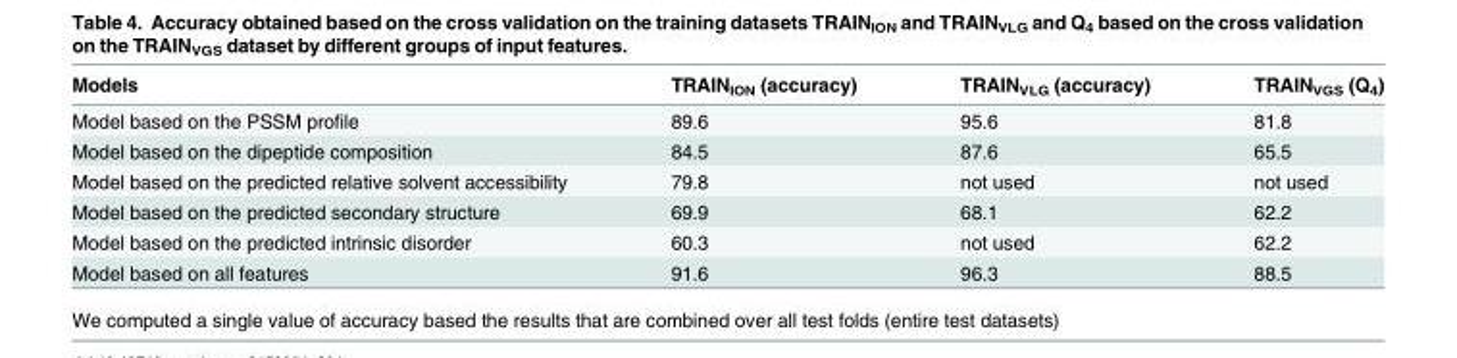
<table><thead><tr><td>Models</td><td>TRAIN<sub>ION</sub> (accuracy)</td><td>TRAIN<sub>VLG</sub> (accuracy)</td><td>TRAIN<sub>VGS</sub> (Q<sub>4</sub>)</td></tr></thead><tbody><tr><td>Model based on the PSSM profile</td><td>89.6</td><td>95.6</td><td>81.8</td></tr><tr><td>Model based on the dipeptide composition</td><td>84.5</td><td>87.6</td><td>65.5</td></tr><tr><td>Model based on the predicted relative solvent accessibility</td><td>79.8</td><td>not used</td><td>not used</td></tr><tr><td>Model based on the predicted secondary structure</td><td>69.9</td><td>68.1</td><td>62.2</td></tr><tr><td>Model based on the predicted intrinsic disorder</td><td>60.3</td><td>not used</td><td>62.2</td></tr><tr><td>Model based on all features</td><td>91.6</td><td>96.3</td><td>88.5</td></tr></tbody></table>